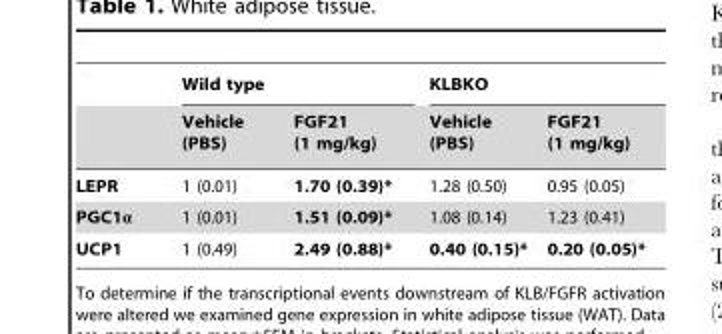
<table><thead><tr><td rowspan="2"></td><td colspan="2">Wild type</td><td colspan="2">KLBKO</td></tr><tr><td>Vehicle (PBS)</td><td>FGF21 (1 mg/kg)</td><td>Vehicle (PBS)</td><td>FGF21 (1 mg/kg)</td></tr></thead><tbody><tr><td>LEPR</td><td>1 (0.01)</td><td>1.70 (0.39)*</td><td>1.28 (0.50)</td><td>0.95 (0.05)</td></tr><tr><td>PGC1α</td><td>1 (0.01)</td><td>1.51 (0.09)*</td><td>1.08 (0.14)</td><td>1.23 (0.41)</td></tr><tr><td>UCP1</td><td>1 (0.49)</td><td>2.49 (0.88)*</td><td>0.40 (0.15)*</td><td>0.20 (0.05)*</td></tr></tbody></table>